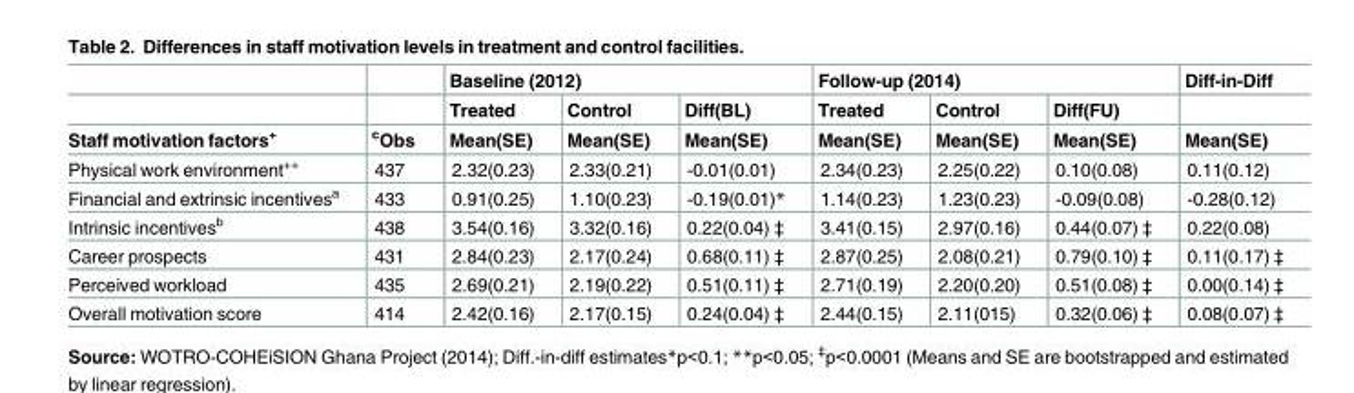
<table><thead><tr><td rowspan="3">Staff motivation factors<sup>+</sup></td><td rowspan="3"><sup>c</sup>Obs</td><td colspan="3">Baseline (2012)</td><td colspan="3">Follow-up (2014)</td><td rowspan="3">Diff-in-Diff Mean(SE)</td></tr><tr><td rowspan="2">Treated Mean(SE)</td><td rowspan="2">Control Mean(SE)</td><td rowspan="2">Diff(BL) Mean(SE)</td><td rowspan="2">Treated Mean(SE)</td><td rowspan="2">Control Mean(SE)</td><td rowspan="2">Diff(FU) Mean(SE)</td></tr><tr></tr></thead><tbody><tr><td>Physical work environment<sup>++</sup></td><td>437</td><td>2.32(0.23)</td><td>2.33(0.21)</td><td>-0.01(0.01)</td><td>2.34(0.23)</td><td>2.25(0.22)</td><td>0.10(0.08)</td><td>0.11(0.12)</td></tr><tr><td>Financial and extrinsic incentives<sup>a</sup></td><td>433</td><td>0.91(0.25)</td><td>1.10(0.23)</td><td>-0.19(0.01)*</td><td>1.14(0.23)</td><td>1.23(0.23)</td><td>-0.09(0.08)</td><td>-0.28(0.12)</td></tr><tr><td>Intrinsic incentives<sup>b</sup></td><td>438</td><td>3.54(0.16)</td><td>3.32(0.16)</td><td>0.22(0.04) ‡</td><td>3.41(0.15)</td><td>2.97(0.16)</td><td>0.44(0.07) ‡</td><td>0.22(0.08)</td></tr><tr><td>Career prospects</td><td>431</td><td>2.84(0.23)</td><td>2.17(0.24)</td><td>0.68(0.11) ‡</td><td>2.87(0.25)</td><td>2.08(0.21)</td><td>0.79(0.10) ‡</td><td>0.11(0.17) ‡</td></tr><tr><td>Perceived workload</td><td>435</td><td>2.69(0.21)</td><td>2.19(0.22)</td><td>0.51(0.11) ‡</td><td>2.71(0.19)</td><td>2.20(0.20)</td><td>0.51(0.08) ‡</td><td>0.00(0.14) ‡</td></tr><tr><td>Overall motivation score</td><td>414</td><td>2.42(0.16)</td><td>2.17(0.15)</td><td>0.24(0.04) ‡</td><td>2.44(0.15)</td><td>2.11(015)</td><td>0.32(0.06) ‡</td><td>0.08(0.07) ‡</td></tr></tbody></table>